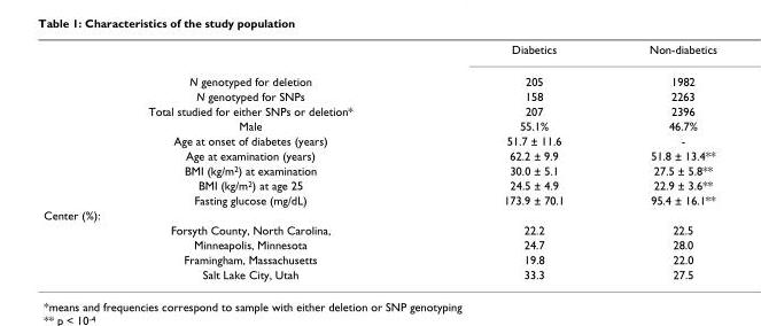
<table><thead><tr><td></td><td>Diabetics</td><td>Non-diabetics</td></tr></thead><tbody><tr><td>N genotyped for deletion</td><td>205</td><td>1982</td></tr><tr><td>N genotyped for SNPs</td><td>158</td><td>2263</td></tr><tr><td>Total studied for either SNPs or deletion*</td><td>207</td><td>2396</td></tr><tr><td>Male</td><td>55.1%</td><td>46.7%</td></tr><tr><td>Age at onset of diabetes (years)</td><td>51.7 ± 11.6</td><td>-</td></tr><tr><td>Age at examination (years)</td><td>62.2 ± 9.9</td><td>51.8 ± 13.4**</td></tr><tr><td>BMI (kg/m<sup>2</sup>) at examination</td><td>30.0 ± 5.1</td><td>27.5 ± 5.8**</td></tr><tr><td>BMI (kg/m<sup>2</sup>) at age 25</td><td>24.5 ± 4.9</td><td>22.9 ± 3.6**</td></tr><tr><td>Fasting glucose (mg/dL)</td><td>173.9 ± 70.1</td><td>95.4 ± 16.1**</td></tr><tr><td colspan="3">Center (%):</td></tr><tr><td>Forsyth County, North Carolina,</td><td>22.2</td><td>22.5</td></tr><tr><td>Minneapolis, Minnesota</td><td>24.7</td><td>28.0</td></tr><tr><td>Framingham, Massachusetts</td><td>19.8</td><td>22.0</td></tr><tr><td>Salt Lake City, Utah</td><td>33.3</td><td>27.5</td></tr></tbody></table>